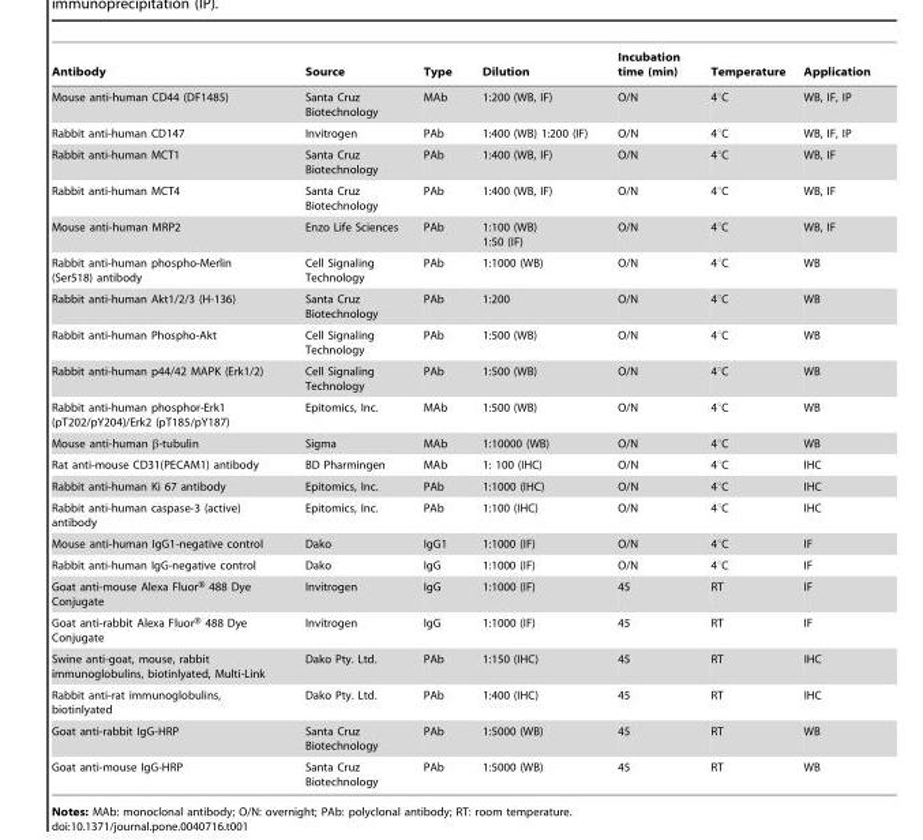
<table><thead><tr><td>Antibody</td><td>Source</td><td>Type</td><td>Dilution</td><td>Incubation time (min)</td><td>Temperature</td><td>Application</td></tr></thead><tbody><tr><td>Mouse anti-human CD44 (DF1485)</td><td>Santa Cruz Biotechnology</td><td>MAb</td><td>1:200 (WB, IF)</td><td>O/N</td><td>4°C</td><td>WB, IF, IP</td></tr><tr><td>Rabbit anti-human CD147</td><td>Invitrogen</td><td>PAb</td><td>1:400 (WB) 1:200 (IF)</td><td>O/N</td><td>4°C</td><td>WB, IF, IP</td></tr><tr><td>Rabbit anti-human MCT1</td><td>Santa Cruz Biotechnology</td><td>PAb</td><td>1:400 (WB, IF)</td><td>O/N</td><td>4°C</td><td>WB, IF</td></tr><tr><td>Rabbit anti-human MCT4</td><td>Santa Cruz Biotechnology</td><td>PAb</td><td>1:400 (WB, IF)</td><td>O/N</td><td>4°C</td><td>WB, IF</td></tr><tr><td>Mouse anti-human MRP2</td><td>Enzo Life Sciences</td><td>PAb</td><td>1:100 (WB) 1:50 (IF)</td><td>O/N</td><td>4°C</td><td>WB, IF</td></tr><tr><td>Rabbit anti-human phospho-Merlin (Ser518) antibody</td><td>Cell Signaling Technology</td><td>PAb</td><td>1:1000 (WB)</td><td>O/N</td><td>4°C</td><td>WB</td></tr><tr><td>Rabbit anti-human Akt1/2/3 (H-136)</td><td>Santa Cruz Biotechnology</td><td>PAb</td><td>1:200</td><td>O/N</td><td>4°C</td><td>WB</td></tr><tr><td>Rabbit anti-human Phospho-Akt</td><td>Cell Signaling Technology</td><td>PAb</td><td>1:500 (WB)</td><td>O/N</td><td>4°C</td><td>WB</td></tr><tr><td>Rabbit anti-human p44/42 MAPK (Erk1/2)</td><td>Cell Signaling Technology</td><td>PAb</td><td>1:500 (WB)</td><td>O/N</td><td>4°C</td><td>WB</td></tr><tr><td>Rabbit anti-human phosphor-Erk1 (pT202/pY204)/Erk2 (pT185/pY187)</td><td>Epitomics, Inc.</td><td>MAb</td><td>1:500 (WB)</td><td>O/N</td><td>4°C</td><td>WB</td></tr><tr><td>Mouse anti-human β-tubulin</td><td>Sigma</td><td>MAb</td><td>1:10000 (WB)</td><td>O/N</td><td>4°C</td><td>WB</td></tr><tr><td>Rat anti-mouse CD31(PECAM1) antibody</td><td>BD Pharmingen</td><td>MAb</td><td>1: 100 (IHC)</td><td>O/N</td><td>4°C</td><td>IHC</td></tr><tr><td>Rabbit anti-human Ki 67 antibody</td><td>Epitomics, Inc.</td><td>PAb</td><td>1:1000 (IHC)</td><td>O/N</td><td>4°C</td><td>IHC</td></tr><tr><td>Rabbit anti-human caspase-3 (active) antibody</td><td>Epitomics, Inc.</td><td>PAb</td><td>1:100 (IHC)</td><td>O/N</td><td>4°C</td><td>IHC</td></tr><tr><td>Mouse anti-human IgG1-negative control</td><td>Dako</td><td>IgG1</td><td>1:1000 (IF)</td><td>O/N</td><td>4°C</td><td>IF</td></tr><tr><td>Rabbit anti-human IgG-negative control</td><td>Dako</td><td>IgG</td><td>1:1000 (IF)</td><td>O/N</td><td>4°C</td><td>IF</td></tr><tr><td>Goat anti-mouse Alexa Fluor® 488 Dye Conjugate</td><td>Invitrogen</td><td>IgG</td><td>1:1000 (IF)</td><td>45</td><td>RT</td><td>IF</td></tr><tr><td>Goat anti-rabbit Alexa Fluor® 488 Dye Conjugate</td><td>Invitrogen</td><td>IgG</td><td>1:1000 (IF)</td><td>45</td><td>RT</td><td>IF</td></tr><tr><td>Swine anti-goat, mouse, rabbit immunoglobulins, biotinlyated, Multi-Link</td><td>Dako Pty. Ltd.</td><td>PAb</td><td>1:150 (IHC)</td><td>45</td><td>RT</td><td>IHC</td></tr><tr><td>Rabbit anti-rat immunoglobulins, biotinlyated</td><td>Dako Pty. Ltd.</td><td>PAb</td><td>1:400 (IHC)</td><td>45</td><td>RT</td><td>IHC</td></tr><tr><td>Goat anti-rabbit IgG-HRP</td><td>Santa Cruz Biotechnology</td><td>PAb</td><td>1:5000 (WB)</td><td>45</td><td>RT</td><td>WB</td></tr><tr><td>Goat anti-mouse IgG-HRP</td><td>Santa Cruz Biotechnology</td><td>PAb</td><td>1:5000 (WB)</td><td>45</td><td>RT</td><td>WB</td></tr></tbody></table>